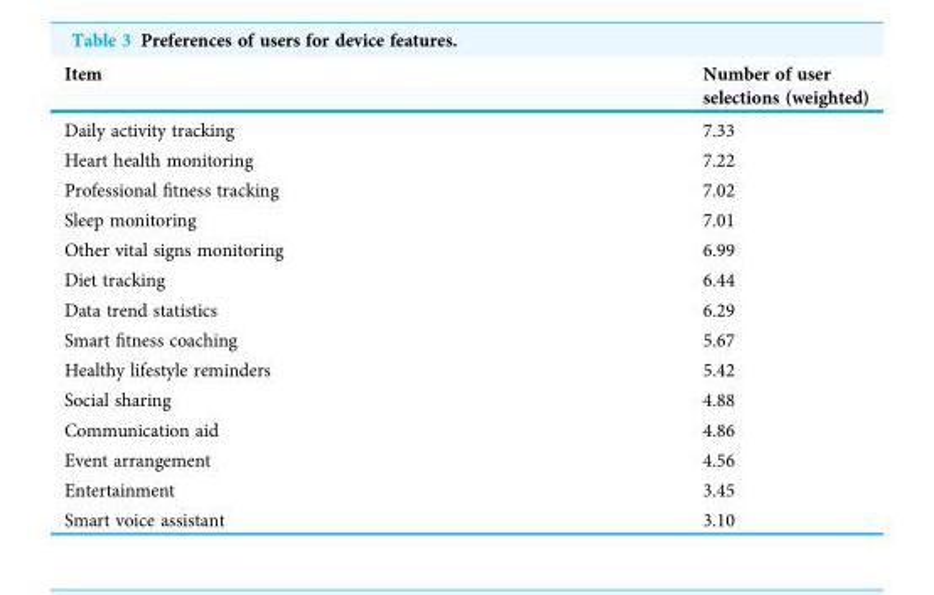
<table><thead><tr><td>Item</td><td>Number of user selections (weighted)</td></tr></thead><tbody><tr><td>Daily activity tracking</td><td>7.33</td></tr><tr><td>Heart health monitoring</td><td>7.22</td></tr><tr><td>Professional fitness tracking</td><td>7.02</td></tr><tr><td>Sleep monitoring</td><td>7.01</td></tr><tr><td>Other vital signs monitoring</td><td>6.99</td></tr><tr><td>Diet tracking</td><td>6.44</td></tr><tr><td>Data trend statistics</td><td>6.29</td></tr><tr><td>Smart fitness coaching</td><td>5.67</td></tr><tr><td>Healthy lifestyle reminders</td><td>5.42</td></tr><tr><td>Social sharing</td><td>4.88</td></tr><tr><td>Communication aid</td><td>4.86</td></tr><tr><td>Event arrangement</td><td>4.56</td></tr><tr><td>Entertainment</td><td>3.45</td></tr><tr><td>Smart voice assistant</td><td>3.10</td></tr></tbody></table>